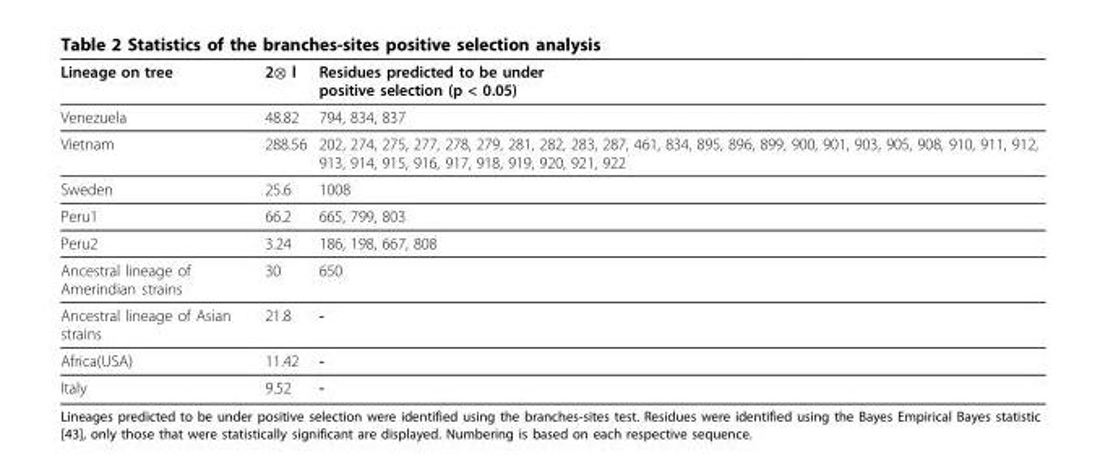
<table><thead><tr><td>Lineage on tree</td><td>2⊗ l</td><td>Residues predicted to be under positive selection (p &lt; 0.05)</td></tr></thead><tbody><tr><td>Venezuela</td><td>48.82</td><td>794, 834, 837</td></tr><tr><td>Vietnam</td><td>288.56</td><td>202, 274, 275, 277, 278, 279, 281, 282, 283, 287, 461, 834, 895, 896, 899, 900, 901, 903, 905, 908, 910, 911, 912, 913, 914, 915, 916, 917, 918, 919, 920, 921, 922</td></tr><tr><td>Sweden</td><td>25.6</td><td>1008</td></tr><tr><td>Peru1</td><td>66.2</td><td>665, 799, 803</td></tr><tr><td>Peru2</td><td>3.24</td><td>186, 198, 667, 808</td></tr><tr><td>Ancestral lineage of Amerindian strains</td><td>30</td><td>650</td></tr><tr><td>Ancestral lineage of Asian strains</td><td>21.8</td><td>-</td></tr><tr><td>Africa(USA)</td><td>11.42</td><td>-</td></tr><tr><td>Italy</td><td>9.52</td><td>-</td></tr></tbody></table>